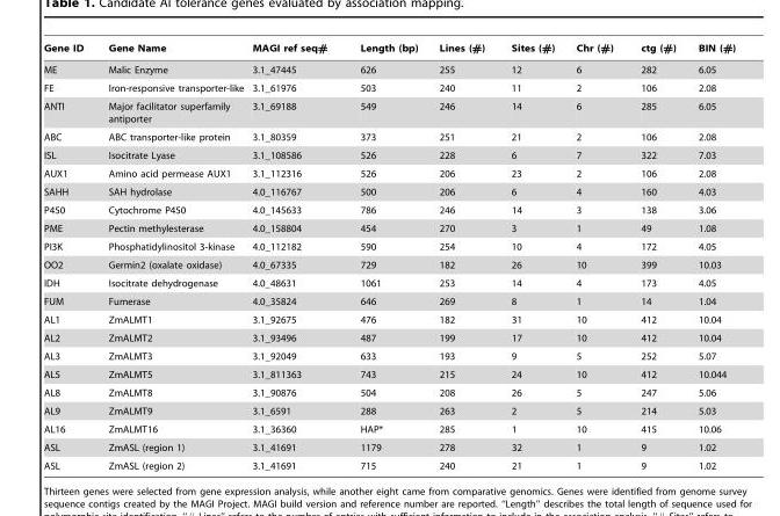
<table><thead><tr><td>Gene ID</td><td>Gene Name</td><td>MAGI ref seq#</td><td>Length (bp)</td><td>Lines (#)</td><td>Sites (#)</td><td>Chr (#)</td><td>ctg (#)</td><td>BIN (#)</td></tr></thead><tbody><tr><td>ME</td><td>Malic Enzyme</td><td>3.1_47445</td><td>626</td><td>255</td><td>12</td><td>6</td><td>282</td><td>6.05</td></tr><tr><td>FE</td><td>Iron-responsive transporter-like</td><td>3.1_61976</td><td>503</td><td>240</td><td>11</td><td>2</td><td>106</td><td>2.08</td></tr><tr><td>ANTI</td><td>Major facilitator superfamily antiporter</td><td>3.1_69188</td><td>549</td><td>246</td><td>14</td><td>6</td><td>285</td><td>6.05</td></tr><tr><td>ABC</td><td>ABC transporter-like protein</td><td>3.1_80359</td><td>373</td><td>251</td><td>21</td><td>2</td><td>106</td><td>2.08</td></tr><tr><td>ISL</td><td>Isocitrate Lyase</td><td>3.1_108586</td><td>526</td><td>228</td><td>6</td><td>7</td><td>322</td><td>7.03</td></tr><tr><td>AUX1</td><td>Amino acid permease AUX1</td><td>3.1_112316</td><td>526</td><td>206</td><td>23</td><td>2</td><td>106</td><td>2.08</td></tr><tr><td>SAHH</td><td>SAH hydrolase</td><td>4.0_116767</td><td>500</td><td>206</td><td>6</td><td>4</td><td>160</td><td>4.03</td></tr><tr><td>P450</td><td>Cytochrome P450</td><td>4.0_145633</td><td>786</td><td>246</td><td>14</td><td>3</td><td>138</td><td>3.06</td></tr><tr><td>PME</td><td>Pectin methylesterase</td><td>4.0_158804</td><td>454</td><td>270</td><td>3</td><td>1</td><td>49</td><td>1.08</td></tr><tr><td>PI3K</td><td>Phosphatidylinositol 3-kinase</td><td>4.0_112182</td><td>590</td><td>254</td><td>10</td><td>4</td><td>172</td><td>4.05</td></tr><tr><td>OO2</td><td>Germin2 (oxalate oxidase)</td><td>4.0_67335</td><td>729</td><td>182</td><td>26</td><td>10</td><td>399</td><td>10.03</td></tr><tr><td>IDH</td><td>Isocitrate dehydrogenase</td><td>4.0_48631</td><td>1061</td><td>253</td><td>14</td><td>4</td><td>173</td><td>4.05</td></tr><tr><td>FUM</td><td>Fumerase</td><td>4.0_35824</td><td>646</td><td>269</td><td>8</td><td>1</td><td>14</td><td>1.04</td></tr><tr><td>AL1</td><td>ZmALMT1</td><td>3.1_92675</td><td>476</td><td>182</td><td>31</td><td>10</td><td>412</td><td>10.04</td></tr><tr><td>AL2</td><td>ZmALMT2</td><td>3.1_93496</td><td>487</td><td>199</td><td>17</td><td>10</td><td>412</td><td>10.04</td></tr><tr><td>AL3</td><td>ZmALMT3</td><td>3.1_92049</td><td>633</td><td>193</td><td>9</td><td>5</td><td>252</td><td>5.07</td></tr><tr><td>AL5</td><td>ZmALMT5</td><td>3.1_811363</td><td>743</td><td>215</td><td>24</td><td>10</td><td>412</td><td>10.044</td></tr><tr><td>AL8</td><td>ZmALMT8</td><td>3.1_90876</td><td>504</td><td>208</td><td>26</td><td>5</td><td>247</td><td>5.06</td></tr><tr><td>AL9</td><td>ZmALMT9</td><td>3.1_6591</td><td>288</td><td>263</td><td>2</td><td>5</td><td>214</td><td>5.03</td></tr><tr><td>AL16</td><td>ZmALMT16</td><td>3.1_36360</td><td>HAP*</td><td>285</td><td>1</td><td>10</td><td>415</td><td>10.06</td></tr><tr><td>ASL</td><td>ZmASL (region 1)</td><td>3.1_41691</td><td>1179</td><td>278</td><td>32</td><td>1</td><td>9</td><td>1.02</td></tr><tr><td>ASL</td><td>ZmASL (region 2)</td><td>3.1_41691</td><td>715</td><td>240</td><td>21</td><td>1</td><td>9</td><td>1.02</td></tr></tbody></table>